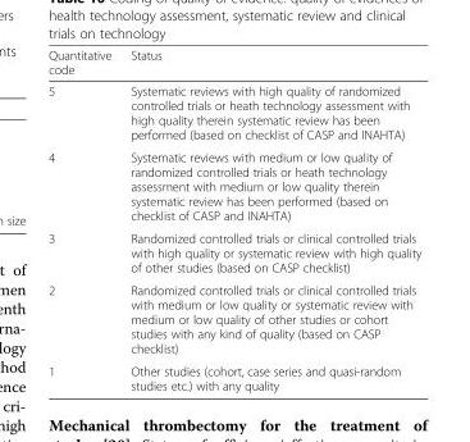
<table><thead><tr><td>Quantitative code</td><td>Status</td></tr></thead><tbody><tr><td>5</td><td>Systematic reviews with high quality of randomized controlled trials or heath technology assessment with high quality therein systematic review has been performed (based on checklist of CASP and INAHTA)</td></tr><tr><td>4</td><td>Systematic reviews with medium or low quality of randomized controlled trials or heath technology assessment with medium or low quality therein systematic review has been performed (based on checklist of CASP and INAHTA)</td></tr><tr><td>3</td><td>Randomized controlled trials or clinical controlled trials with high quality or systematic review with high quality of other studies (based on CASP checklist)</td></tr><tr><td>2</td><td>Randomized controlled trials or clinical controlled trials with medium or low quality or systematic review with medium or low quality of other studies or cohort studies with any kind of quality (based on CASP checklist)</td></tr><tr><td>1</td><td>Other studies (cohort, case series and quasi-random studies etc.) with any quality</td></tr></tbody></table>